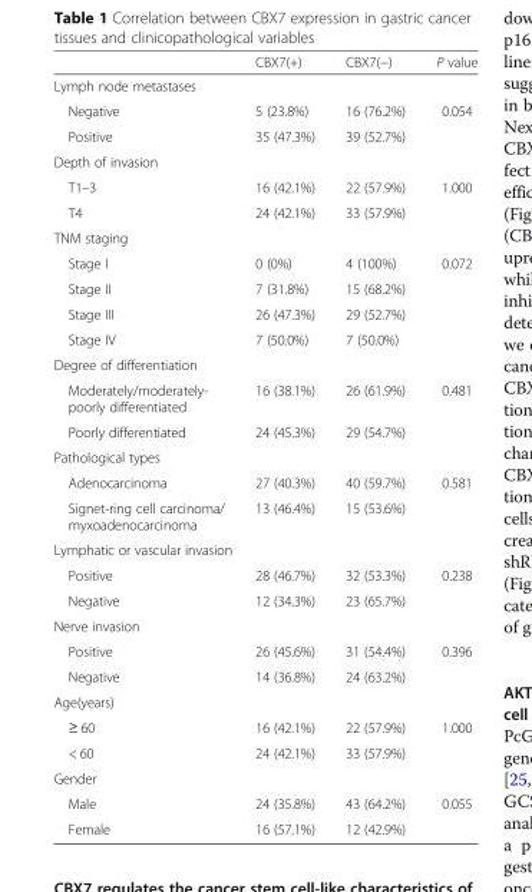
<table><thead><tr><td></td><td>CBX7(+)</td><td>CBX7(−)</td><td>P value</td></tr></thead><tbody><tr><td colspan="4">Lymph node metastases</td></tr><tr><td>Negative</td><td>5 (23.8%)</td><td>16 (76.2%)</td><td rowspan="2">0.054</td></tr><tr><td>Positive</td><td>35 (47.3%)</td><td>39 (52.7%)</td></tr><tr><td colspan="4">Depth of invasion</td></tr><tr><td>T1–3</td><td>16 (42.1%)</td><td>22 (57.9%)</td><td rowspan="2">1.000</td></tr><tr><td>T4</td><td>24 (42.1%)</td><td>33 (57.9%)</td></tr><tr><td colspan="4">TNM staging</td></tr><tr><td>Stage I</td><td>0 (0%)</td><td>4 (100%)</td><td rowspan="4">0.072</td></tr><tr><td>Stage II</td><td>7 (31.8%)</td><td>15 (68.2%)</td></tr><tr><td>Stage III</td><td>26 (47.3%)</td><td>29 (52.7%)</td></tr><tr><td>Stage IV</td><td>7 (50.0%)</td><td>7 (50.0%)</td></tr><tr><td colspan="4">Degree of differentiation</td></tr><tr><td>Moderately/moderately- poorly differentiated</td><td>16 (38.1%)</td><td>26 (61.9%)</td><td rowspan="2">0.481</td></tr><tr><td>Poorly differentiated</td><td>24 (45.3%)</td><td>29 (54.7%)</td></tr><tr><td colspan="4">Pathological types</td></tr><tr><td>Adenocarcinoma</td><td>27 (40.3%)</td><td>40 (59.7%)</td><td rowspan="2">0.581</td></tr><tr><td>Signet-ring cell carcinoma/ myxoadenocarcinoma</td><td>13 (46.4%)</td><td>15 (53.6%)</td></tr><tr><td colspan="4">Lymphatic or vascular invasion</td></tr><tr><td>Positive</td><td>28 (46.7%)</td><td>32 (53.3%)</td><td rowspan="2">0.238</td></tr><tr><td>Negative</td><td>12 (34.3%)</td><td>23 (65.7%)</td></tr><tr><td colspan="4">Nerve invasion</td></tr><tr><td>Positive</td><td>26 (45.6%)</td><td>31 (54.4%)</td><td rowspan="2">0.396</td></tr><tr><td>Negative</td><td>14 (36.8%)</td><td>24 (63.2%)</td></tr><tr><td colspan="4">Age(years)</td></tr><tr><td>≥ 60</td><td>16 (42.1%)</td><td>22 (57.9%)</td><td rowspan="2">1.000</td></tr><tr><td>&lt; 60</td><td>24 (42.1%)</td><td>33 (57.9%)</td></tr><tr><td colspan="4">Gender</td></tr><tr><td>Male</td><td>24 (35.8%)</td><td>43 (64.2%)</td><td rowspan="2">0.055</td></tr><tr><td>Female</td><td>16 (57.1%)</td><td>12 (42.9%)</td></tr></tbody></table>